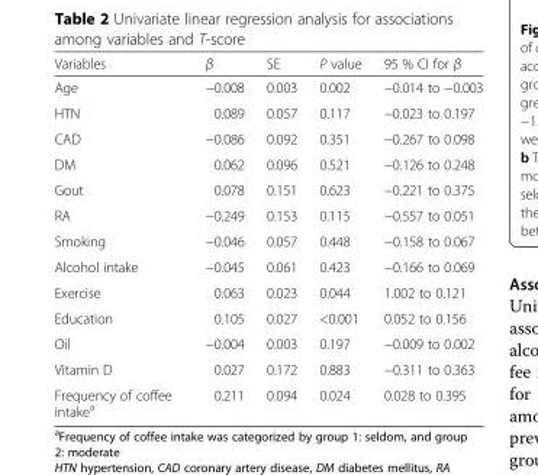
<table><thead><tr><td>Variables</td><td>β</td><td>SE</td><td>P value</td><td>95 % CI for β</td></tr></thead><tbody><tr><td>Age</td><td>−0.008</td><td>0.003</td><td>0.002</td><td>−0.014 to −0.003</td></tr><tr><td>HTN</td><td>0.089</td><td>0.057</td><td>0.117</td><td>−0.023 to 0.197</td></tr><tr><td>CAD</td><td>−0.086</td><td>0.092</td><td>0.351</td><td>−0.267 to 0.098</td></tr><tr><td>DM</td><td>0.062</td><td>0.096</td><td>0.521</td><td>−0.126 to 0.248</td></tr><tr><td>Gout</td><td>0.078</td><td>0.151</td><td>0.623</td><td>−0.221 to 0.375</td></tr><tr><td>RA</td><td>−0.249</td><td>0.153</td><td>0.115</td><td>−0.557 to 0.051</td></tr><tr><td>Smoking</td><td>−0.046</td><td>0.057</td><td>0.448</td><td>−0.158 to 0.067</td></tr><tr><td>Alcohol intake</td><td>−0.045</td><td>0.061</td><td>0.423</td><td>−0.166 to 0.069</td></tr><tr><td>Exercise</td><td>0.063</td><td>0.023</td><td>0.044</td><td>1.002 to 0.121</td></tr><tr><td>Education</td><td>0.105</td><td>0.027</td><td>&lt;0.001</td><td>0.052 to 0.156</td></tr><tr><td>Oil</td><td>−0.004</td><td>0.003</td><td>0.197</td><td>−0.009 to 0.002</td></tr><tr><td>Vitamin D</td><td>0.027</td><td>0.172</td><td>0.883</td><td>−0.311 to 0.363</td></tr><tr><td>Frequency of coffee intake<sup>a</sup></td><td>0.211</td><td>0.094</td><td>0.024</td><td>0.028 to 0.395</td></tr></tbody></table>